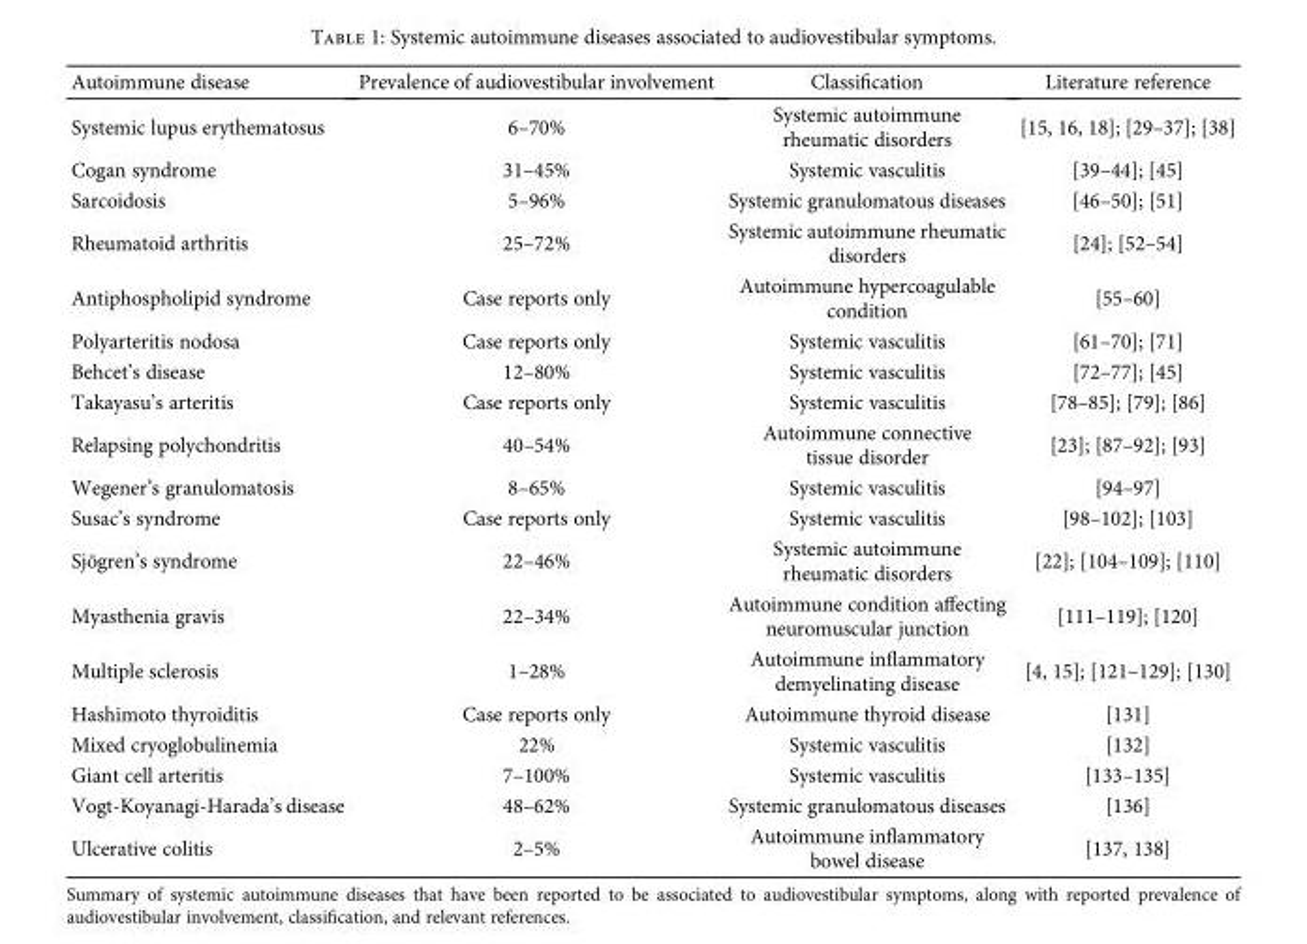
<table><thead><tr><td>Autoimmune disease</td><td>Prevalence of audiovestibular involvement</td><td>Classification</td><td>Literature reference</td></tr></thead><tbody><tr><td>Systemic lupus erythematosus</td><td>6–70%</td><td>Systemic autoimmune rheumatic disorders</td><td>[15, 16, 18]; [29–37]; [38]</td></tr><tr><td>Cogan syndrome</td><td>31–45%</td><td>Systemic vasculitis</td><td>[39–44]; [45]</td></tr><tr><td>Sarcoidosis</td><td>5–96%</td><td>Systemic granulomatous diseases</td><td>[46–50]; [51]</td></tr><tr><td>Rheumatoid arthritis</td><td>25–72%</td><td>Systemic autoimmune rheumatic disorders</td><td>[24]; [52–54]</td></tr><tr><td>Antiphospholipid syndrome</td><td>Case reports only</td><td>Autoimmune hypercoagulable condition</td><td>[55–60]</td></tr><tr><td>Polyarteritis nodosa</td><td>Case reports only</td><td>Systemic vasculitis</td><td>[61–70]; [71]</td></tr><tr><td>Behcet’s disease</td><td>12–80%</td><td>Systemic vasculitis</td><td>[72–77]; [45]</td></tr><tr><td>Takayasu’s arteritis</td><td>Case reports only</td><td>Systemic vasculitis</td><td>[78–85]; [79]; [86]</td></tr><tr><td>Relapsing polychondritis</td><td>40–54%</td><td>Autoimmune connective tissue disorder</td><td>[23]; [87–92]; [93]</td></tr><tr><td>Wegener’s granulomatosis</td><td>8–65%</td><td>Systemic vasculitis</td><td>[94–97]</td></tr><tr><td>Susac’s syndrome</td><td>Case reports only</td><td>Systemic vasculitis</td><td>[98–102]; [103]</td></tr><tr><td>Sjögren’s syndrome</td><td>22–46%</td><td>Systemic autoimmune rheumatic disorders</td><td>[22]; [104–109]; [110]</td></tr><tr><td>Myasthenia gravis</td><td>22–34%</td><td>Autoimmune condition affecting neuromuscular junction</td><td>[111–119]; [120]</td></tr><tr><td>Multiple sclerosis</td><td>1–28%</td><td>Autoimmune inflammatory demyelinating disease</td><td>[4, 15]; [121–129]; [130]</td></tr><tr><td>Hashimoto thyroiditis</td><td>Case reports only</td><td>Autoimmune thyroid disease</td><td>[131]</td></tr><tr><td>Mixed cryoglobulinemia</td><td>22%</td><td>Systemic vasculitis</td><td>[132]</td></tr><tr><td>Giant cell arteritis</td><td>7–100%</td><td>Systemic vasculitis</td><td>[133–135]</td></tr><tr><td>Vogt-Koyanagi-Harada’s disease</td><td>48–62%</td><td>Systemic granulomatous diseases</td><td>[136]</td></tr><tr><td>Ulcerative colitis</td><td>2–5%</td><td>Autoimmune inflammatory bowel disease</td><td>[137, 138]</td></tr></tbody></table>